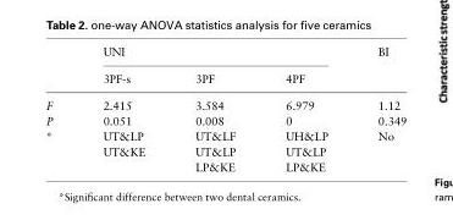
<table><thead><tr><td rowspan="2"></td><td colspan="3">UNI</td><td rowspan="2">BI</td></tr><tr><td>3PF-s</td><td>3PF</td><td>4PF</td></tr></thead><tbody><tr><td>F</td><td>2.415</td><td>3.584</td><td>6.979</td><td>1.12</td></tr><tr><td>P</td><td>0.051</td><td>0.008</td><td>0</td><td>0.349</td></tr><tr><td rowspan="3">*</td><td>UT&amp;LP</td><td>UT&amp;LF</td><td>UH&amp;LP</td><td rowspan="3">No</td></tr><tr><td rowspan="2">UT&amp;KE</td><td>UT&amp;LP</td><td>UT&amp;LP</td></tr><tr><td>LP&amp;KE</td><td>LP&amp;KE</td></tr></tbody></table>